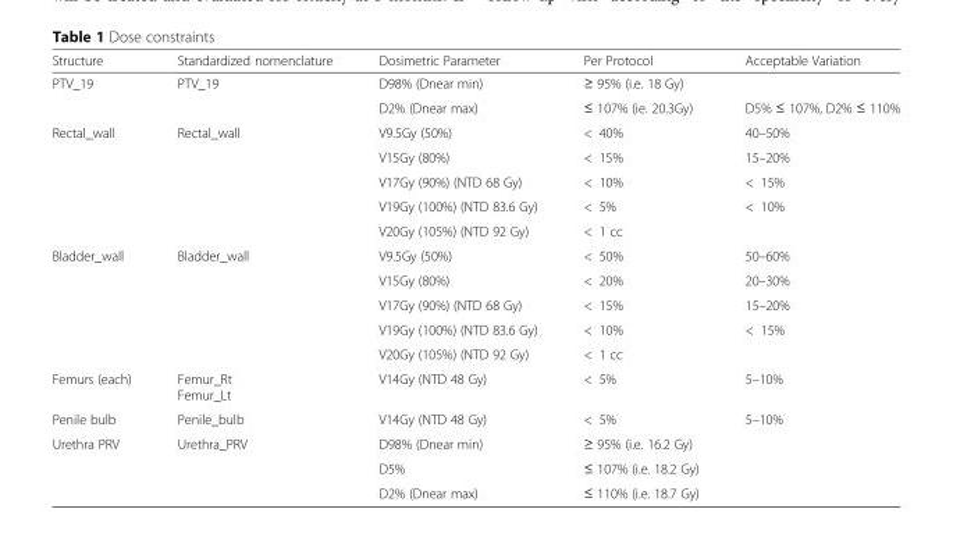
<table><thead><tr><td>Structure</td><td>Standardized nomenclature</td><td>Dosimetric Parameter</td><td>Per Protocol</td><td>Acceptable Variation</td></tr></thead><tbody><tr><td rowspan="2">PTV_19</td><td rowspan="2">PTV_19</td><td>D98% (Dnear min)</td><td>≥ 95% (i.e. 18 Gy)</td><td></td></tr><tr><td>D2% (Dnear max)</td><td>≤ 107% (ie. 20.3Gy)</td><td>D5% ≤ 107%, D2% ≤ 110%</td></tr><tr><td rowspan="5">Rectal_wall</td><td rowspan="5">Rectal_wall</td><td>V9.5Gy (50%)</td><td>&lt; 40%</td><td>40–50%</td></tr><tr><td>V15Gy (80%)</td><td>&lt; 15%</td><td>15–20%</td></tr><tr><td>V17Gy (90%) (NTD 68 Gy)</td><td>&lt; 10%</td><td>&lt; 15%</td></tr><tr><td>V19Gy (100%) (NTD 83.6 Gy)</td><td>&lt; 5%</td><td>&lt; 10%</td></tr><tr><td>V20Gy (105%) (NTD 92 Gy)</td><td>&lt; 1 cc</td><td></td></tr><tr><td rowspan="5">Bladder_wall</td><td rowspan="5">Bladder_wall</td><td>V9.5Gy (50%)</td><td>&lt; 50%</td><td>50–60%</td></tr><tr><td>V15Gy (80%)</td><td>&lt; 20%</td><td>20–30%</td></tr><tr><td>V17Gy (90%) (NTD 68 Gy)</td><td>&lt; 15%</td><td>15–20%</td></tr><tr><td>V19Gy (100%) (NTD 83.6 Gy)</td><td>&lt; 10%</td><td>&lt; 15%</td></tr><tr><td>V20Gy (105%) (NTD 92 Gy)</td><td>&lt; 1 cc</td><td></td></tr><tr><td>Femurs (each)</td><td>Femur_Rt Femur_Lt</td><td>V14Gy (NTD 48 Gy)</td><td>&lt; 5%</td><td>5–10%</td></tr><tr><td>Penile bulb</td><td>Penile_bulb</td><td>V14Gy (NTD 48 Gy)</td><td>&lt; 5%</td><td>5–10%</td></tr><tr><td rowspan="3">Urethra PRV</td><td rowspan="3">Urethra_PRV</td><td>D98% (Dnear min)</td><td>≥ 95% (i.e. 16.2 Gy)</td><td></td></tr><tr><td>D5%</td><td>≤ 107% (i.e. 18.2 Gy)</td><td></td></tr><tr><td>D2% (Dnear max)</td><td>≤ 110% (i.e. 18.7 Gy)</td><td></td></tr></tbody></table>